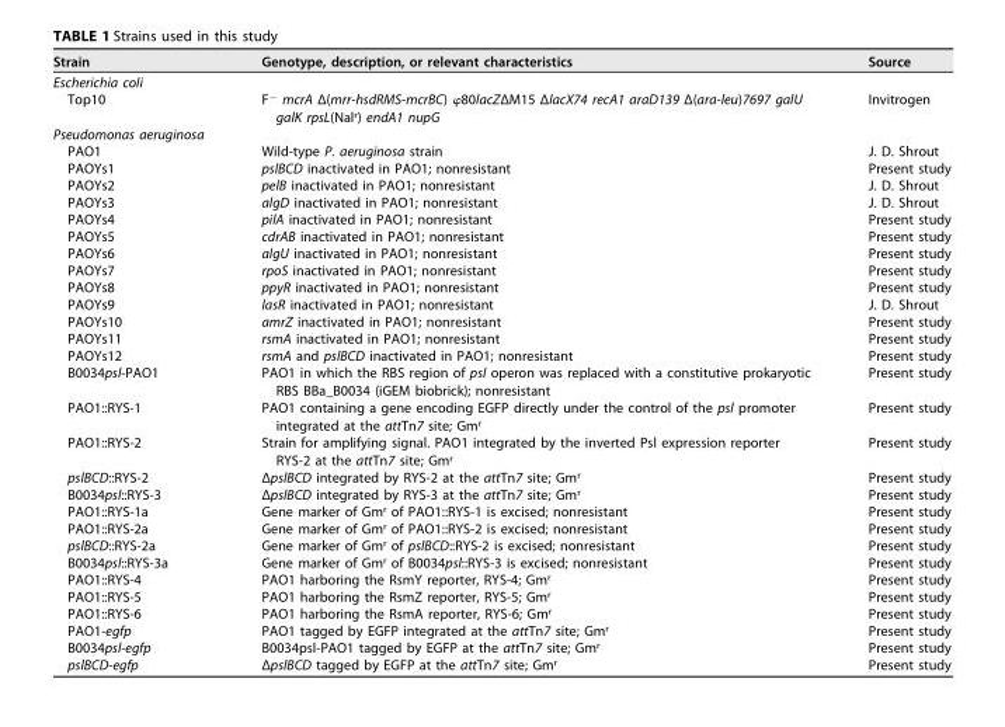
<table><thead><tr><td>Strain</td><td>Genotype, description, or relevant characteristics</td><td>Source</td></tr></thead><tbody><tr><td colspan="3">Escherichia coli</td></tr><tr><td>Top10</td><td>F<sup>−</sup> mcrA Δ(mrr-hsdRMS-mcrBC) φ80lacZΔM15 ΔlacX74 recA1 araD139 Δ(ara-leu)7697 galU galK rpsL(Nal<sup>r</sup>) endA1 nupG</td><td>Invitrogen</td></tr><tr><td colspan="3">Pseudomonas aeruginosa</td></tr><tr><td>PAO1</td><td>Wild-type P. aeruginosa strain</td><td>J. D. Shrout</td></tr><tr><td>PAOYs1</td><td>pslBCD inactivated in PAO1; nonresistant</td><td>Present study</td></tr><tr><td>PAOYs2</td><td>pelB inactivated in PAO1; nonresistant</td><td>J. D. Shrout</td></tr><tr><td>PAOYs3</td><td>algD inactivated in PAO1; nonresistant</td><td>J. D. Shrout</td></tr><tr><td>PAOYs4</td><td>pilA inactivated in PAO1; nonresistant</td><td>Present study</td></tr><tr><td>PAOYs5</td><td>cdrAB inactivated in PAO1; nonresistant</td><td>Present study</td></tr><tr><td>PAOYs6</td><td>algU inactivated in PAO1; nonresistant</td><td>Present study</td></tr><tr><td>PAOYs7</td><td>rpoS inactivated in PAO1; nonresistant</td><td>Present study</td></tr><tr><td>PAOYs8</td><td>ppyR inactivated in PAO1; nonresistant</td><td>Present study</td></tr><tr><td>PAOYs9</td><td>lasR inactivated in PAO1; nonresistant</td><td>J. D. Shrout</td></tr><tr><td>PAOYs10</td><td>amrZ inactivated in PAO1; nonresistant</td><td>Present study</td></tr><tr><td>PAOYs11</td><td>rsmA inactivated in PAO1; nonresistant</td><td>Present study</td></tr><tr><td>PAOYs12</td><td>rsmA and pslBCD inactivated in PAO1; nonresistant</td><td>Present study</td></tr><tr><td>B0034psl-PAO1</td><td>PAO1 in which the RBS region of psl operon was replaced with a constitutive prokaryotic RBS BBa_B0034 (iGEM biobrick); nonresistant</td><td>Present study</td></tr><tr><td>PAO1::RYS-1</td><td>PAO1 containing a gene encoding EGFP directly under the control of the psl promoter integrated at the attTn7 site; Gm<sup>r</sup></td><td>Present study</td></tr><tr><td>PAO1::RYS-2</td><td>Strain for amplifying signal. PAO1 integrated by the inverted Psl expression reporter RYS-2 at the attTn7 site; Gm<sup>r</sup></td><td>Present study</td></tr><tr><td>pslBCD::RYS-2</td><td>ΔpslBCD integrated by RYS-2 at the attTn7 site; Gm<sup>r</sup></td><td>Present study</td></tr><tr><td>B0034psl::RYS-3</td><td>ΔpslBCD integrated by RYS-3 at the attTn7 site; Gm<sup>r</sup></td><td>Present study</td></tr><tr><td>PAO1::RYS-1a</td><td>Gene marker of Gm<sup>r</sup> of PAO1::RYS-1 is excised; nonresistant</td><td>Present study</td></tr><tr><td>PAO1::RYS-2a</td><td>Gene marker of Gm<sup>r</sup> of PAO1::RYS-2 is excised; nonresistant</td><td>Present study</td></tr><tr><td>pslBCD::RYS-2a</td><td>Gene marker of Gm<sup>r</sup> of pslBCD::RYS-2 is excised; nonresistant</td><td>Present study</td></tr><tr><td>B0034psl::RYS-3a</td><td>Gene marker of Gm<sup>r</sup> of B0034psl::RYS-3 is excised; nonresistant</td><td>Present study</td></tr><tr><td>PAO1::RYS-4</td><td>PAO1 harboring the RsmY reporter, RYS-4; Gm<sup>r</sup></td><td>Present study</td></tr><tr><td>PAO1::RYS-5</td><td>PAO1 harboring the RsmZ reporter, RYS-5; Gm<sup>r</sup></td><td>Present study</td></tr><tr><td>PAO1::RYS-6</td><td>PAO1 harboring the RsmA reporter, RYS-6; Gm<sup>r</sup></td><td>Present study</td></tr><tr><td>PAO1-egfp</td><td>PAO1 tagged by EGFP integrated at the attTn7 site; Gm<sup>r</sup></td><td>Present study</td></tr><tr><td>B0034psl-egfp</td><td>B0034psl-PAO1 tagged by EGFP at the attTn7 site; Gm<sup>r</sup></td><td>Present study</td></tr><tr><td>pslBCD-egfp</td><td>ΔpslBCD tagged by EGFP at the attTn7 site; Gm<sup>r</sup></td><td>Present study</td></tr></tbody></table>